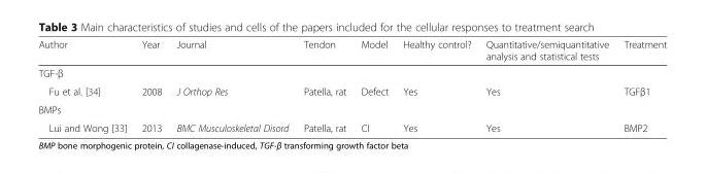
<table><thead><tr><td>Author</td><td>Year</td><td>Journal</td><td>Tendon</td><td>Model</td><td>Healthy control?</td><td>Quantitative/semiquantitative analysis and statistical tests</td><td>Treatment</td></tr></thead><tbody><tr><td colspan="8">TGF-β</td></tr><tr><td>Fu et al. [34]</td><td>2008</td><td>J Orthop Res</td><td>Patella, rat</td><td>Defect</td><td>Yes</td><td>Yes</td><td>TGFβ1</td></tr><tr><td colspan="8">BMPs</td></tr><tr><td>Lui and Wong [33]</td><td>2013</td><td>BMC Musculoskeletal Disord</td><td>Patella, rat</td><td>CI</td><td>Yes</td><td>Yes</td><td>BMP2</td></tr></tbody></table>